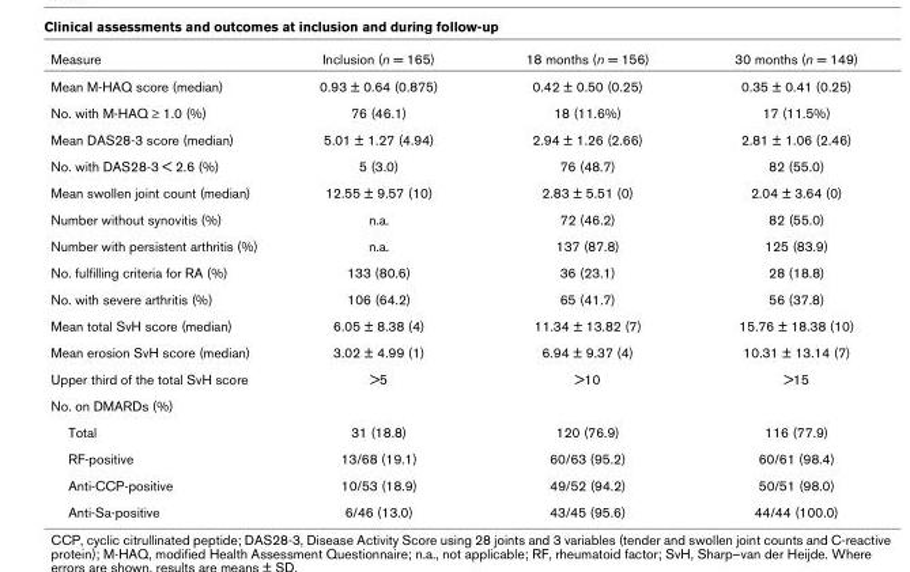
<table><thead><tr><td>Measure</td><td>Inclusion (n = 165)</td><td>18 months (n = 156)</td><td>30 months (n = 149)</td></tr></thead><tbody><tr><td>Mean M-HAQ score (median)</td><td>0.93 ± 0.64 (0.875)</td><td>0.42 ± 0.50 (0.25)</td><td>0.35 ± 0.41 (0.25)</td></tr><tr><td>No. with M-HAQ ≥ 1.0 (%)</td><td>76 (46.1)</td><td>18 (11.6%)</td><td>17 (11.5%)</td></tr><tr><td>Mean DAS28-3 score (median)</td><td>5.01 ± 1.27 (4.94)</td><td>2.94 ± 1.26 (2.66)</td><td>2.81 ± 1.06 (2.46)</td></tr><tr><td>No. with DAS28-3 &lt; 2.6 (%)</td><td>5 (3.0)</td><td>76 (48.7)</td><td>82 (55.0)</td></tr><tr><td>Mean swollen joint count (median)</td><td>12.55 ± 9.57 (10)</td><td>2.83 ± 5.51 (0)</td><td>2.04 ± 3.64 (0)</td></tr><tr><td>Number without synovitis (%)</td><td>n.a.</td><td>72 (46.2)</td><td>82 (55.0)</td></tr><tr><td>Number with persistent arthritis (%)</td><td>n.a.</td><td>137 (87.8)</td><td>125 (83.9)</td></tr><tr><td>No. fulfilling criteria for RA (%)</td><td>133 (80.6)</td><td>36 (23.1)</td><td>28 (18.8)</td></tr><tr><td>No. with severe arthritis (%)</td><td>106 (64.2)</td><td>65 (41.7)</td><td>56 (37.8)</td></tr><tr><td>Mean total SvH score (median)</td><td>6.05 ± 8.38 (4)</td><td>11.34 ± 13.82 (7)</td><td>15.76 ± 18.38 (10)</td></tr><tr><td>Mean erosion SvH score (median)</td><td>3.02 ± 4.99 (1)</td><td>6.94 ± 9.37 (4)</td><td>10.31 ± 13.14 (7)</td></tr><tr><td>Upper third of the total SvH score</td><td>&gt;5</td><td>&gt;10</td><td>&gt;15</td></tr><tr><td colspan="4">No. on DMARDs (%)</td></tr><tr><td>Total</td><td>31 (18.8)</td><td>120 (76.9)</td><td>116 (77.9)</td></tr><tr><td>RF-positive</td><td>13/68 (19.1)</td><td>60/63 (95.2)</td><td>60/61 (98.4)</td></tr><tr><td>Anti-CCP-positive</td><td>10/53 (18.9)</td><td>49/52 (94.2)</td><td>50/51 (98.0)</td></tr><tr><td>Anti-Sa-positive</td><td>6/46 (13.0)</td><td>43/45 (95.6)</td><td>44/44 (100.0)</td></tr></tbody></table>